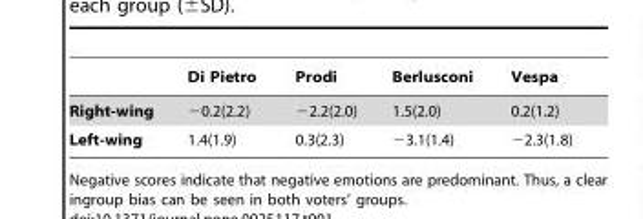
<table><thead><tr><td></td><td>Di Pietro</td><td>Prodi</td><td>Berlusconi</td><td>Vespa</td></tr></thead><tbody><tr><td>Right-wing</td><td>−0.2(2.2)</td><td>−2.2(2.0)</td><td>1.5(2.0)</td><td>0.2(1.2)</td></tr><tr><td>Left-wing</td><td>1.4(1.9)</td><td>0.3(2.3)</td><td>−3.1(1.4)</td><td>−2.3(1.8)</td></tr></tbody></table>